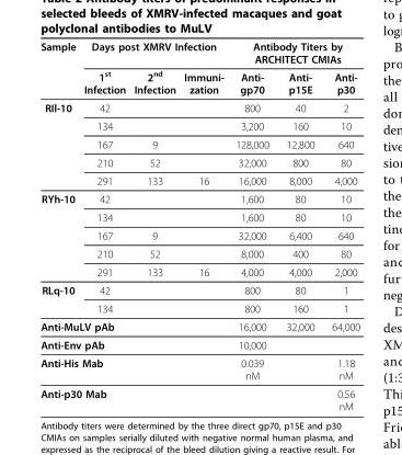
<table><thead><tr><td rowspan="2">Sample</td><td colspan="3">Days post XMRV Infection</td><td colspan="3">Antibody Titers by ARCHITECT CMIAs</td></tr><tr><td>1<sup>st</sup> Infection</td><td>2<sup>nd</sup> Infection</td><td>Immuni- zation</td><td>Anti- gp70</td><td>Anti- p15E</td><td>Anti- p30</td></tr></thead><tbody><tr><td rowspan="5">RIl-10</td><td>42</td><td></td><td></td><td>800</td><td>40</td><td>2</td></tr><tr><td>134</td><td></td><td></td><td>3,200</td><td>160</td><td>10</td></tr><tr><td>167</td><td>9</td><td></td><td>128,000</td><td>12,800</td><td>640</td></tr><tr><td>210</td><td>52</td><td></td><td>32,000</td><td>800</td><td>80</td></tr><tr><td>291</td><td>133</td><td>16</td><td>16,000</td><td>8,000</td><td>4,000</td></tr><tr><td rowspan="5">RYh-10</td><td>42</td><td></td><td></td><td>1,600</td><td>80</td><td>10</td></tr><tr><td>134</td><td></td><td></td><td>1,600</td><td>80</td><td>10</td></tr><tr><td>167</td><td>9</td><td></td><td>32,000</td><td>6,400</td><td>640</td></tr><tr><td>210</td><td>52</td><td></td><td>8,000</td><td>400</td><td>80</td></tr><tr><td>291</td><td>133</td><td>16</td><td>4,000</td><td>4,000</td><td>2,000</td></tr><tr><td rowspan="2">RLq-10</td><td>42</td><td></td><td></td><td>800</td><td>80</td><td>1</td></tr><tr><td>134</td><td></td><td></td><td>800</td><td>160</td><td>1</td></tr><tr><td colspan="4">Anti-MuLV pAb</td><td>16,000</td><td>32,000</td><td>64,000</td></tr><tr><td colspan="4">Anti-Env pAb</td><td>10,000</td><td></td><td></td></tr><tr><td colspan="4">Anti-His Mab</td><td>0.039 nM</td><td></td><td>1.18 nM</td></tr><tr><td colspan="4">Anti-p30 Mab</td><td></td><td></td><td>0.56 nM</td></tr></tbody></table>